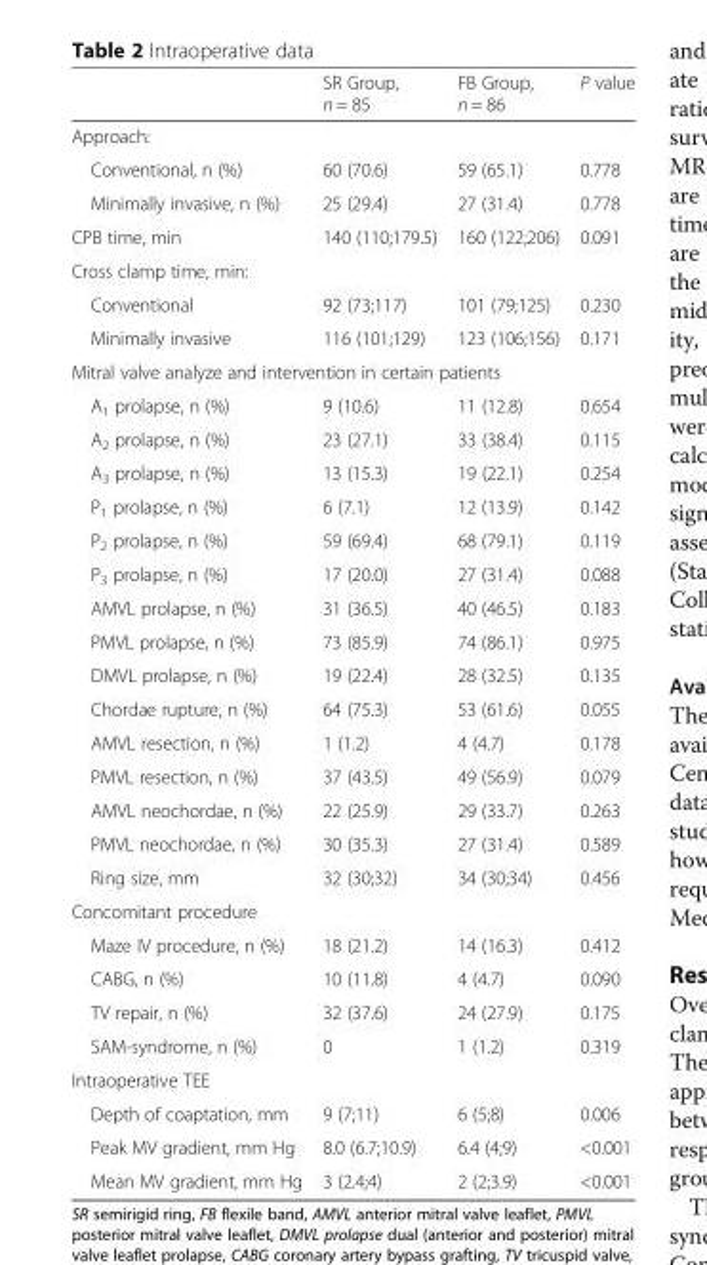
<table><thead><tr><td></td><td>SR Group, n = 85</td><td>FB Group, n = 86</td><td>P value</td></tr></thead><tbody><tr><td colspan="4">Approach:</td></tr><tr><td>Conventional, n (%)</td><td>60 (70.6)</td><td>59 (65.1)</td><td>0.778</td></tr><tr><td>Minimally invasive, n (%)</td><td>25 (29.4)</td><td>27 (31.4)</td><td>0.778</td></tr><tr><td>CPB time, min</td><td>140 (110;179.5)</td><td>160 (122;206)</td><td>0.091</td></tr><tr><td colspan="4">Cross clamp time, min:</td></tr><tr><td>Conventional</td><td>92 (73;117)</td><td>101 (79;125)</td><td>0.230</td></tr><tr><td>Minimally invasive</td><td>116 (101;129)</td><td>123 (106;156)</td><td>0.171</td></tr><tr><td colspan="4">Mitral valve analyze and intervention in certain patients</td></tr><tr><td>А<sub>1</sub> prolapse, n (%)</td><td>9 (10.6)</td><td>11 (12.8)</td><td>0.654</td></tr><tr><td>А<sub>2</sub> prolapse, n (%)</td><td>23 (27.1)</td><td>33 (38.4)</td><td>0.115</td></tr><tr><td>А<sub>3</sub> prolapse, n (%)</td><td>13 (15.3)</td><td>19 (22.1)</td><td>0.254</td></tr><tr><td>P<sub>1</sub> prolapse, n (%)</td><td>6 (7.1)</td><td>12 (13.9)</td><td>0.142</td></tr><tr><td>P<sub>2</sub> prolapse, n (%)</td><td>59 (69.4)</td><td>68 (79.1)</td><td>0.119</td></tr><tr><td>P<sub>3</sub> prolapse, n (%)</td><td>17 (20.0)</td><td>27 (31.4)</td><td>0.088</td></tr><tr><td>AMVL prolapse, n (%)</td><td>31 (36.5)</td><td>40 (46.5)</td><td>0.183</td></tr><tr><td>PMVL prolapse, n (%)</td><td>73 (85.9)</td><td>74 (86.1)</td><td>0.975</td></tr><tr><td>DMVL prolapse, n (%)</td><td>19 (22.4)</td><td>28 (32.5)</td><td>0.135</td></tr><tr><td>Chordae rupture, n (%)</td><td>64 (75.3)</td><td>53 (61.6)</td><td>0.055</td></tr><tr><td>AMVL resection, n (%)</td><td>1 (1.2)</td><td>4 (4.7)</td><td>0.178</td></tr><tr><td>PMVL resection, n (%)</td><td>37 (43.5)</td><td>49 (56.9)</td><td>0.079</td></tr><tr><td>AMVL neochordae, n (%)</td><td>22 (25.9)</td><td>29 (33.7)</td><td>0.263</td></tr><tr><td>PMVL neochordae, n (%)</td><td>30 (35.3)</td><td>27 (31.4)</td><td>0.589</td></tr><tr><td>Ring size, mm</td><td>32 (30;32)</td><td>34 (30;34)</td><td>0.456</td></tr><tr><td colspan="4">Concomitant procedure</td></tr><tr><td>Maze IV procedure, n (%)</td><td>18 (21.2)</td><td>14 (16.3)</td><td>0.412</td></tr><tr><td>CABG, n (%)</td><td>10 (11.8)</td><td>4 (4.7)</td><td>0.090</td></tr><tr><td>TV repair, n (%)</td><td>32 (37.6)</td><td>24 (27.9)</td><td>0.175</td></tr><tr><td>SAM-syndrome, n (%)</td><td>0</td><td>1 (1.2)</td><td>0.319</td></tr><tr><td colspan="4">Intraoperative TEE</td></tr><tr><td>Depth of coaptation, mm</td><td>9 (7;11)</td><td>6 (5;8)</td><td>0.006</td></tr><tr><td>Peak MV gradient, mm Hg</td><td>8.0 (6.7;10.9)</td><td>6.4 (4;9)</td><td>&lt;0.001</td></tr><tr><td>Mean MV gradient, mm Hg</td><td>3 (2.4;4)</td><td>2 (2;3.9)</td><td>&lt;0.001</td></tr></tbody></table>